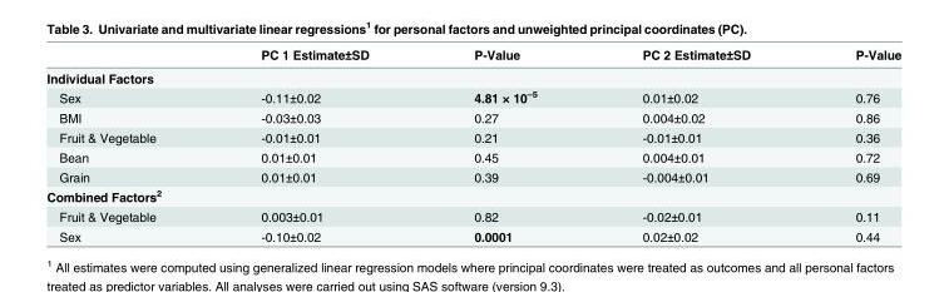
<table><thead><tr><td></td><td>PC 1 Estimate±SD</td><td>P-Value</td><td>PC 2 Estimate±SD</td><td>P-Value</td></tr></thead><tbody><tr><td colspan="5">Individual Factors</td></tr><tr><td>Sex</td><td>-0.11±0.02</td><td>4.81 × 10<sup>–5</sup></td><td>0.01±0.02</td><td>0.76</td></tr><tr><td>BMI</td><td>-0.03±0.03</td><td>0.27</td><td>0.004±0.02</td><td>0.86</td></tr><tr><td>Fruit &amp; Vegetable</td><td>-0.01±0.01</td><td>0.21</td><td>-0.01±0.01</td><td>0.36</td></tr><tr><td>Bean</td><td>0.01±0.01</td><td>0.45</td><td>0.004±0.01</td><td>0.72</td></tr><tr><td>Grain</td><td>0.01±0.01</td><td>0.39</td><td>-0.004±0.01</td><td>0.69</td></tr><tr><td colspan="5">Combined Factors<sup>2</sup></td></tr><tr><td>Fruit &amp; Vegetable</td><td>0.003±0.01</td><td>0.82</td><td>-0.02±0.01</td><td>0.11</td></tr><tr><td>Sex</td><td>-0.10±0.02</td><td>0.0001</td><td>0.02±0.02</td><td>0.44</td></tr></tbody></table>